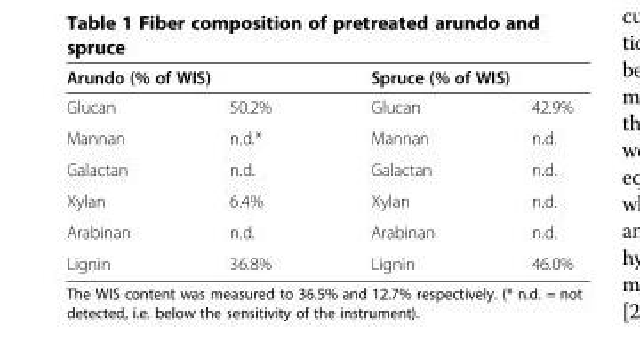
<table><thead><tr><td colspan="2">Arundo (% of WIS)</td><td colspan="2">Spruce (% of WIS)</td></tr><tr><td>Glucan</td><td>50.2%</td><td>Glucan</td><td>42.9%</td></tr></thead><tbody><tr><td>Mannan</td><td>n.d.*</td><td>Mannan</td><td>n.d.</td></tr><tr><td>Galactan</td><td>n.d.</td><td>Galactan</td><td>n.d.</td></tr><tr><td>Xylan</td><td>6.4%</td><td>Xylan</td><td>n.d.</td></tr><tr><td>Arabinan</td><td>n.d.</td><td>Arabinan</td><td>n.d.</td></tr><tr><td>Lignin</td><td>36.8%</td><td>Lignin</td><td>46.0%</td></tr></tbody></table>